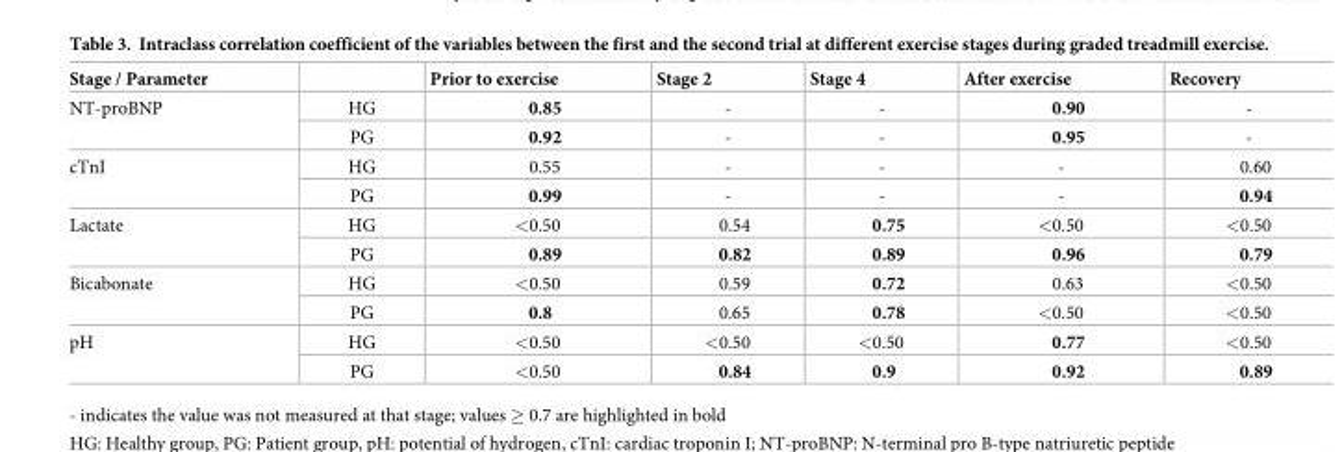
<table><thead><tr><td>Stage / Parameter</td><td></td><td>Prior to exercise</td><td>Stage 2</td><td>Stage 4</td><td>After exercise</td><td>Recovery</td></tr></thead><tbody><tr><td rowspan="2">NT-proBNP</td><td>HG</td><td>0.85</td><td>-</td><td>-</td><td>0.90</td><td>-</td></tr><tr><td>PG</td><td>0.92</td><td>-</td><td>-</td><td>0.95</td><td>-</td></tr><tr><td rowspan="2">cTnI</td><td>HG</td><td>0.55</td><td>-</td><td>-</td><td>-</td><td>0.60</td></tr><tr><td>PG</td><td>0.99</td><td>-</td><td>-</td><td>-</td><td>0.94</td></tr><tr><td rowspan="2">Lactate</td><td>HG</td><td>&lt;0.50</td><td>0.54</td><td>0.75</td><td>&lt;0.50</td><td>&lt;0.50</td></tr><tr><td>PG</td><td>0.89</td><td>0.82</td><td>0.89</td><td>0.96</td><td>0.79</td></tr><tr><td rowspan="2">Bicabonate</td><td>HG</td><td>&lt;0.50</td><td>0.59</td><td>0.72</td><td>0.63</td><td>&lt;0.50</td></tr><tr><td>PG</td><td>0.8</td><td>0.65</td><td>0.78</td><td>&lt;0.50</td><td>&lt;0.50</td></tr><tr><td rowspan="2">pH</td><td>HG</td><td>&lt;0.50</td><td>&lt;0.50</td><td>&lt;0.50</td><td>0.77</td><td>&lt;0.50</td></tr><tr><td>PG</td><td>&lt;0.50</td><td>0.84</td><td>0.9</td><td>0.92</td><td>0.89</td></tr></tbody></table>